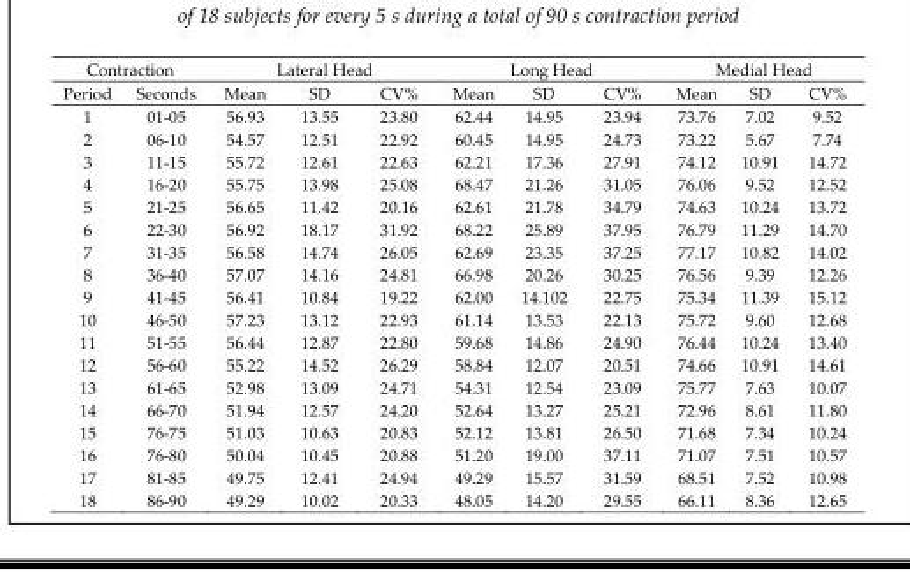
<table><thead><tr><td colspan="2">Contraction</td><td colspan="3">Lateral Head</td><td colspan="3">Long Head</td><td colspan="3">Medial Head</td></tr><tr><td>Period</td><td>Seconds</td><td>Mean</td><td>SD</td><td>CV%</td><td>Mean</td><td>SD</td><td>CV%</td><td>Mean</td><td>SD</td><td>CV%</td></tr></thead><tbody><tr><td>1</td><td>01-05</td><td>56.93</td><td>13.55</td><td>23.80</td><td>62.44</td><td>14.95</td><td>23.94</td><td>73.76</td><td>7.02</td><td>9.52</td></tr><tr><td>2</td><td>06-10</td><td>54.57</td><td>12.51</td><td>22.92</td><td>60.45</td><td>14.95</td><td>24.73</td><td>73.22</td><td>5.67</td><td>7.74</td></tr><tr><td>3</td><td>11-15</td><td>55.72</td><td>12.61</td><td>22.63</td><td>62.21</td><td>17.36</td><td>27.91</td><td>74.12</td><td>10.91</td><td>14.72</td></tr><tr><td>4</td><td>16-20</td><td>55.75</td><td>13.98</td><td>25.08</td><td>68.47</td><td>21.26</td><td>31.05</td><td>76.06</td><td>9.52</td><td>12.52</td></tr><tr><td>5</td><td>21-25</td><td>56.65</td><td>11.42</td><td>20.16</td><td>62.61</td><td>21.78</td><td>34.79</td><td>74.63</td><td>10.24</td><td>13.72</td></tr><tr><td>6</td><td>22-30</td><td>56.92</td><td>18.17</td><td>31.92</td><td>68.22</td><td>25.89</td><td>37.95</td><td>76.79</td><td>11.29</td><td>14.70</td></tr><tr><td>7</td><td>31-35</td><td>56.58</td><td>14.74</td><td>26.05</td><td>62.69</td><td>23.35</td><td>37.25</td><td>77.17</td><td>10.82</td><td>14.02</td></tr><tr><td>8</td><td>36-40</td><td>57.07</td><td>14.16</td><td>24.81</td><td>66.98</td><td>20.26</td><td>30.25</td><td>76.56</td><td>9.39</td><td>12.26</td></tr><tr><td>9</td><td>41-45</td><td>56.41</td><td>10.84</td><td>19.22</td><td>62.00</td><td>14.102</td><td>22.75</td><td>75.34</td><td>11.39</td><td>15.12</td></tr><tr><td>10</td><td>46-50</td><td>57.23</td><td>13.12</td><td>22.93</td><td>61.14</td><td>13.53</td><td>22.13</td><td>75.72</td><td>9.60</td><td>12.68</td></tr><tr><td>11</td><td>51-55</td><td>56.44</td><td>12.87</td><td>22.80</td><td>59.68</td><td>14.86</td><td>24.90</td><td>76.44</td><td>10.24</td><td>13.40</td></tr><tr><td>12</td><td>56-60</td><td>55.22</td><td>14.52</td><td>26.29</td><td>58.84</td><td>12.07</td><td>20.51</td><td>74.66</td><td>10.91</td><td>14.61</td></tr><tr><td>13</td><td>61-65</td><td>52.98</td><td>13.09</td><td>24.71</td><td>54.31</td><td>12.54</td><td>23.09</td><td>75.77</td><td>7.63</td><td>10.07</td></tr><tr><td>14</td><td>66-70</td><td>51.94</td><td>12.57</td><td>24.20</td><td>52.64</td><td>13.27</td><td>25.21</td><td>72.96</td><td>8.61</td><td>11.80</td></tr><tr><td>15</td><td>76-75</td><td>51.03</td><td>10.63</td><td>20.83</td><td>52.12</td><td>13.81</td><td>26.50</td><td>71.68</td><td>7.34</td><td>10.24</td></tr><tr><td>16</td><td>76-80</td><td>50.04</td><td>10.45</td><td>20.88</td><td>51.20</td><td>19.00</td><td>37.11</td><td>71.07</td><td>7.51</td><td>10.57</td></tr><tr><td>17</td><td>81-85</td><td>49.75</td><td>12.41</td><td>24.94</td><td>49.29</td><td>15.57</td><td>31.59</td><td>68.51</td><td>7.52</td><td>10.98</td></tr><tr><td>18</td><td>86-90</td><td>49.29</td><td>10.02</td><td>20.33</td><td>48.05</td><td>14.20</td><td>29.55</td><td>66.11</td><td>8.36</td><td>12.65</td></tr></tbody></table>